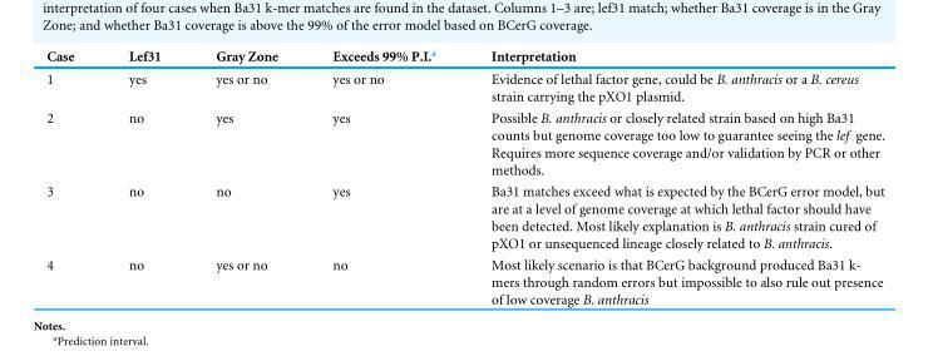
<table><thead><tr><td>Case</td><td>Lef31</td><td>Gray Zone</td><td>Exceeds 99% P.I.<sup>a</sup></td><td>Interpretation</td></tr></thead><tbody><tr><td>1</td><td>yes</td><td>yes or no</td><td>yes or no</td><td>Evidence of lethal factor gene, could be B. anthracis or a B. cereus strain carrying the pXO1 plasmid.</td></tr><tr><td>2</td><td>no</td><td>yes</td><td>yes</td><td>Possible B. anthracis or closely related strain based on high Ba31 counts but genome coverage too low to guarantee seeing the lef gene. Requires more sequence coverage and/or validation by PCR or other methods.</td></tr><tr><td>3</td><td>no</td><td>no</td><td>yes</td><td>Ba31 matches exceed what is expected by the BCerG error model, but are at a level of genome coverage at which lethal factor should have been detected. Most likely explanation is B. anthracis strain cured of pXO1 or unsequenced lineage closely related to B. anthracis.</td></tr><tr><td>4</td><td>no</td><td>yes or no</td><td>no</td><td>Most likely scenario is that BCerG background produced Ba31 k- mers through random errors but impossible to also rule out presence of low coverage B. anthracis</td></tr></tbody></table>